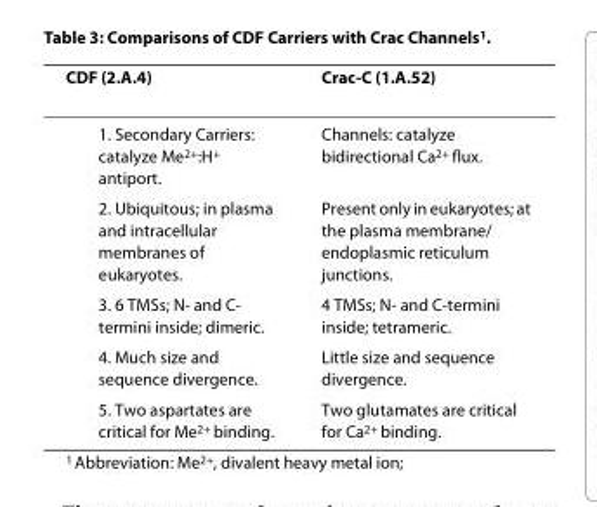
<table><thead><tr><td>CDF (2.A.4)</td><td>Crac-C (1.A.52)</td></tr></thead><tbody><tr><td>1. Secondary Carriers: catalyze Me<sup>2+</sup>:H<sup>+</sup> antiport.</td><td>Channels: catalyze bidirectional Ca<sup>2+</sup> flux.</td></tr><tr><td>2. Ubiquitous; in plasma and intracellular membranes of eukaryotes.</td><td>Present only in eukaryotes; at the plasma membrane/ endoplasmic reticulum junctions.</td></tr><tr><td>3. 6 TMSs; N- and C- termini inside; dimeric.</td><td>4 TMSs; N- and C-termini inside; tetrameric.</td></tr><tr><td>4. Much size and sequence divergence.</td><td>Little size and sequence divergence.</td></tr><tr><td>5. Two aspartates are critical for Me<sup>2+</sup> binding.</td><td>Two glutamates are critical for Ca<sup>2+</sup> binding.</td></tr></tbody></table>